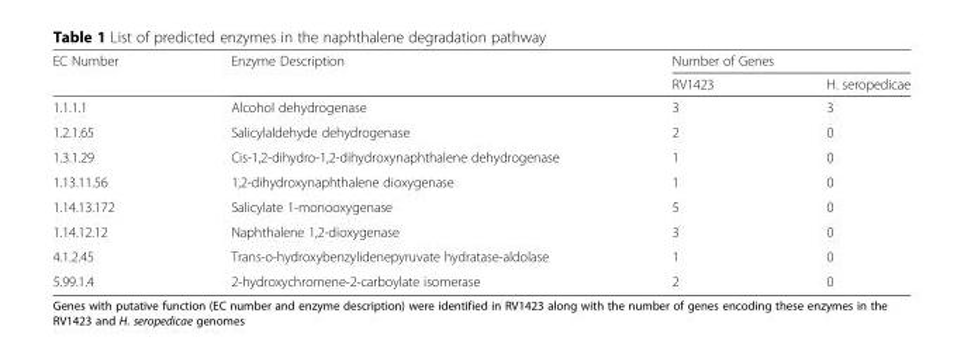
<table><thead><tr><td rowspan="2">EC Number</td><td rowspan="2">Enzyme Description</td><td colspan="2">Number of Genes</td></tr><tr><td>RV1423</td><td>H. seropedicae</td></tr></thead><tbody><tr><td>1.1.1.1</td><td>Alcohol dehydrogenase</td><td>3</td><td>3</td></tr><tr><td>1.2.1.65</td><td>Salicylaldehyde dehydrogenase</td><td>2</td><td>0</td></tr><tr><td>1.3.1.29</td><td>Cis-1,2-dihydro-1,2-dihydroxynaphthalene dehydrogenase</td><td>1</td><td>0</td></tr><tr><td>1.13.11.56</td><td>1,2-dihydroxynaphthalene dioxygenase</td><td>1</td><td>0</td></tr><tr><td>1.14.13.172</td><td>Salicylate 1-monooxygenase</td><td>5</td><td>0</td></tr><tr><td>1.14.12.12</td><td>Naphthalene 1,2-dioxygenase</td><td>3</td><td>0</td></tr><tr><td>4.1.2.45</td><td>Trans-o-hydroxybenzylidenepyruvate hydratase-aldolase</td><td>1</td><td>0</td></tr><tr><td>5.99.1.4</td><td>2-hydroxychromene-2-carboylate isomerase</td><td>2</td><td>0</td></tr></tbody></table>